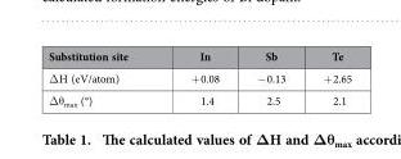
<table><thead><tr><td>Substitution site</td><td>In</td><td>Sb</td><td>Te</td></tr></thead><tbody><tr><td>Δ H (eV/atom)</td><td>+ 0.08</td><td>− 0.13</td><td>+ 2.65</td></tr><tr><td>Δ θ <sub>max</sub> (°)</td><td>1.4</td><td>2.5</td><td>2.1</td></tr></tbody></table>